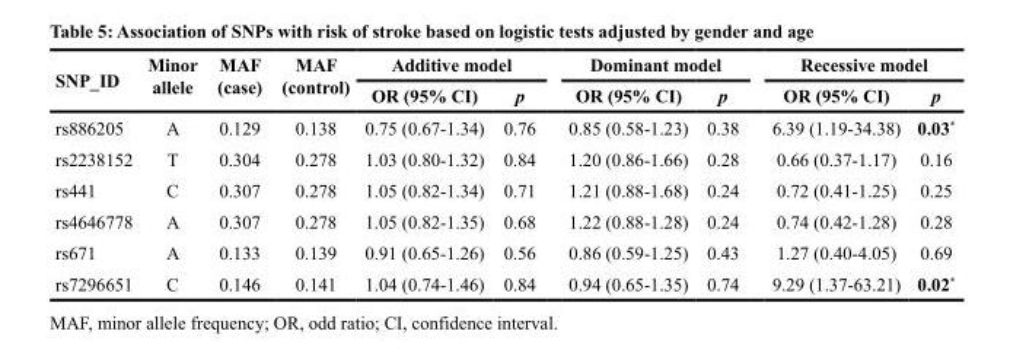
<table><thead><tr><td rowspan="2">SNP_ID</td><td rowspan="2">Minor allele</td><td rowspan="2">MAF (case)</td><td rowspan="2">MAF (control)</td><td colspan="2">Additive model</td><td colspan="2">Dominant model</td><td colspan="2">Recessive model</td></tr><tr><td>OR (95% CI)</td><td>p</td><td>OR (95% CI)</td><td>p</td><td>OR (95% CI)</td><td>p</td></tr></thead><tbody><tr><td>rs886205</td><td>A</td><td>0.129</td><td>0.138</td><td>0.75 (0.67-1.34)</td><td>0.76</td><td>0.85 (0.58-1.23)</td><td>0.38</td><td>6.39 (1.19-34.38)</td><td>0.03*</td></tr><tr><td>rs2238152</td><td>T</td><td>0.304</td><td>0.278</td><td>1.03 (0.80-1.32)</td><td>0.84</td><td>1.20 (0.86-1.66)</td><td>0.28</td><td>0.66 (0.37-1.17)</td><td>0.16</td></tr><tr><td>rs441</td><td>C</td><td>0.307</td><td>0.278</td><td>1.05 (0.82-1.34)</td><td>0.71</td><td>1.21 (0.88-1.68)</td><td>0.24</td><td>0.72 (0.41-1.25)</td><td>0.25</td></tr><tr><td>rs4646778</td><td>A</td><td>0.307</td><td>0.278</td><td>1.05 (0.82-1.35)</td><td>0.68</td><td>1.22 (0.88-1.28)</td><td>0.24</td><td>0.74 (0.42-1.28)</td><td>0.28</td></tr><tr><td>rs671</td><td>A</td><td>0.133</td><td>0.139</td><td>0.91 (0.65-1.26)</td><td>0.56</td><td>0.86 (0.59-1.25)</td><td>0.43</td><td>1.27 (0.40-4.05)</td><td>0.69</td></tr><tr><td>rs7296651</td><td>C</td><td>0.146</td><td>0.141</td><td>1.04 (0.74-1.46)</td><td>0.84</td><td>0.94 (0.65-1.35)</td><td>0.74</td><td>9.29 (1.37-63.21)</td><td>0.02*</td></tr></tbody></table>